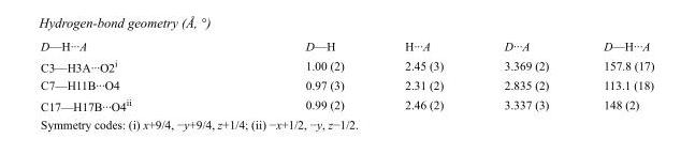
<table><tbody><tr><td>D—H···A</td><td>D—H</td><td>H···A</td><td>D···A</td><td>D—H···A</td></tr><tr><td>C3—H3A···O2<sup>i</sup></td><td>1.00 (2)</td><td>2.45 (3)</td><td>3.369 (2)</td><td>157.8 (17)</td></tr><tr><td>C7—H11B···O4</td><td>0.97 (3)</td><td>2.31 (2)</td><td>2.835 (2)</td><td>113.1 (18)</td></tr><tr><td>C17—H17B···O4<sup>ii</sup></td><td>0.99 (2)</td><td>2.46 (2)</td><td>3.337 (3)</td><td>148 (2)</td></tr></tbody></table>